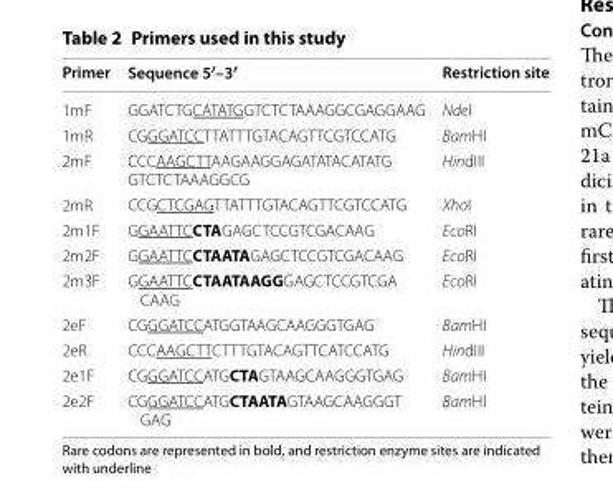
<table><thead><tr><td>Primer</td><td>Sequence 5′–3′</td><td>Restriction site</td></tr></thead><tbody><tr><td>1mF</td><td>GGA TCT GCAT ATG GTC TCT AAA GGC GAG GAA G</td><td>NdeI</td></tr><tr><td>1mR</td><td>CGGGA TCC TTA TTT GTA CAG TTC GTC CATG</td><td>BamHI</td></tr><tr><td>2mF</td><td>CCC AAG CTT AAG AAG GAG ATA TAC ATA TG GTC TCT AAA GGC G</td><td>HindIII</td></tr><tr><td>2mR</td><td>CCG CTC GAG TTA TTT GTA CAG TTC GTC CATG</td><td>XhoI</td></tr><tr><td>2m1F</td><td>GGAA TTC CTA GAG CTC CGT CGA CAAG</td><td>EcoRI</td></tr><tr><td>2m2F</td><td>GGAA TTC CTA ATA GAG CTC CGT CGA CAAG</td><td>EcoRI</td></tr><tr><td>2m3F</td><td>GGAA TTC CTA ATA AGG GAG CTC CGT CGA CAAG</td><td>EcoRI</td></tr><tr><td>2eF</td><td>CGGGA TCC ATG GTA AGC AAG GGT GAG</td><td>BamHI</td></tr><tr><td>2eR</td><td>CCC AAG CTT CTT TGT ACA GTT CAT CCA TG</td><td>HindIII</td></tr><tr><td>2e1F</td><td>CGGGA TCC ATG CTA GTA AGC AAG GGT GAG</td><td>BamHI</td></tr><tr><td>2e2F</td><td>CGGGA TCC ATG CTA ATA GTA AGC AAG GGT GAG</td><td>BamHI</td></tr></tbody></table>